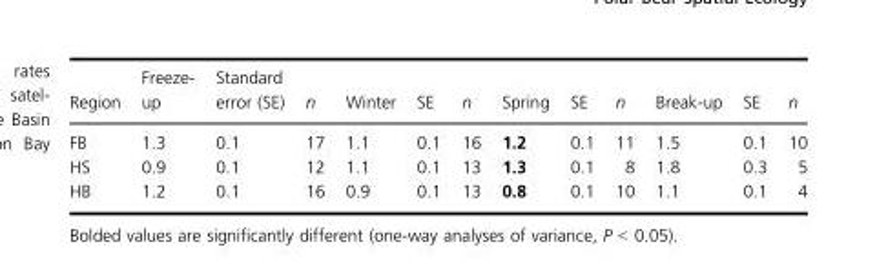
<table><thead><tr><td>Region</td><td>Freeze- up</td><td>Standard error (SE)</td><td>n</td><td>Winter</td><td>SE</td><td>n</td><td>Spring</td><td>SE</td><td>n</td><td>Break-up</td><td>SE</td><td>n</td></tr></thead><tbody><tr><td>FB</td><td>1.3</td><td>0.1</td><td>17</td><td>1.1</td><td>0.1</td><td>16</td><td>1.2</td><td>0.1</td><td>11</td><td>1.5</td><td>0.1</td><td>10</td></tr><tr><td>HS</td><td>0.9</td><td>0.1</td><td>12</td><td>1.1</td><td>0.1</td><td>13</td><td>1.3</td><td>0.1</td><td>8</td><td>1.8</td><td>0.3</td><td>5</td></tr><tr><td>HB</td><td>1.2</td><td>0.1</td><td>16</td><td>0.9</td><td>0.1</td><td>13</td><td>0.8</td><td>0.1</td><td>10</td><td>1.1</td><td>0.1</td><td>4</td></tr></tbody></table>